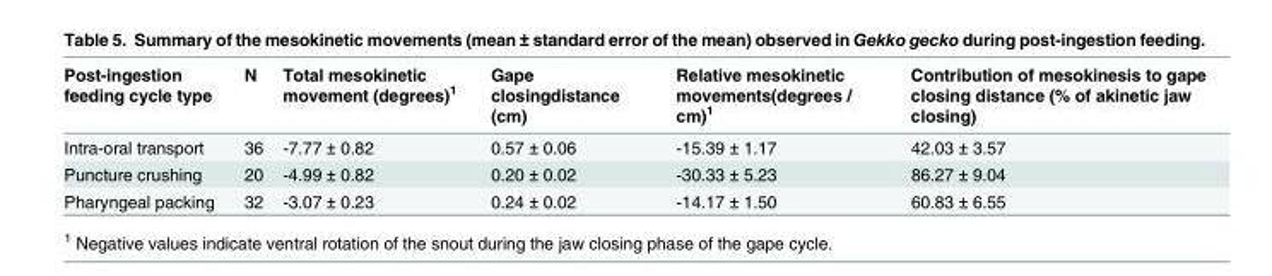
<table><thead><tr><td>Post-ingestion feeding cycle type</td><td>N</td><td>Total mesokinetic movement (degrees)<sup>1</sup></td><td>Gape closingdistance (cm)</td><td>Relative mesokinetic movements(degrees / cm)<sup>1</sup></td><td>Contribution of mesokinesis to gape closing distance (% of akinetic jaw closing)</td></tr></thead><tbody><tr><td>Intra-oral transport</td><td>36</td><td>-7.77 ± 0.82</td><td>0.57 ± 0.06</td><td>-15.39 ± 1.17</td><td>42.03 ± 3.57</td></tr><tr><td>Puncture crushing</td><td>20</td><td>-4.99 ± 0.82</td><td>0.20 ± 0.02</td><td>-30.33 ± 5.23</td><td>86.27 ± 9.04</td></tr><tr><td>Pharyngeal packing</td><td>32</td><td>-3.07 ± 0.23</td><td>0.24 ± 0.02</td><td>-14.17 ± 1.50</td><td>60.83 ± 6.55</td></tr></tbody></table>